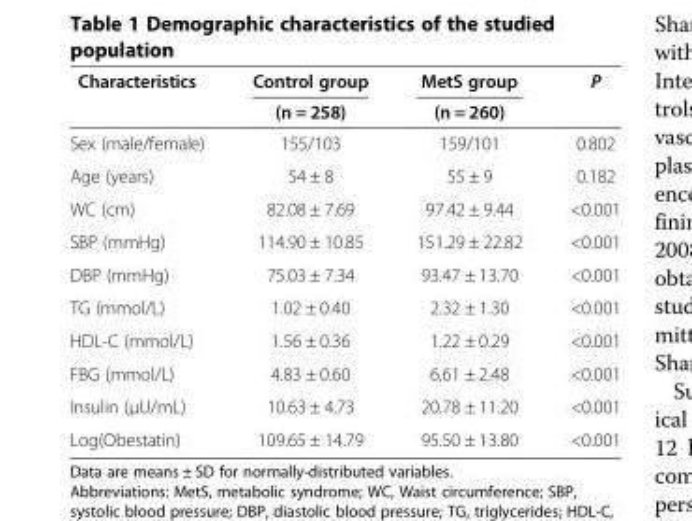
<table><thead><tr><td rowspan="2">Characteristics</td><td rowspan="2">Control group (n = 258)</td><td rowspan="2">MetS group (n = 260)</td><td rowspan="2">P</td></tr><tr></tr></thead><tbody><tr><td>Sex (male/female)</td><td>155/103</td><td>159/101</td><td>0.802</td></tr><tr><td>Age (years)</td><td>54 ± 8</td><td>55 ± 9</td><td>0.182</td></tr><tr><td>WC (cm)</td><td>82.08 ± 7.69</td><td>97.42 ± 9.44</td><td>&lt;0.001</td></tr><tr><td>SBP (mmHg)</td><td>114.90 ± 10.85</td><td>151.29 ± 22.82</td><td>&lt;0.001</td></tr><tr><td>DBP (mmHg)</td><td>75.03 ± 7.34</td><td>93.47 ± 13.70</td><td>&lt;0.001</td></tr><tr><td>TG (mmol/L)</td><td>1.02 ± 0.40</td><td>2.32 ± 1.30</td><td>&lt;0.001</td></tr><tr><td>HDL-C (mmol/L)</td><td>1.56 ± 0.36</td><td>1.22 ± 0.29</td><td>&lt;0.001</td></tr><tr><td>FBG (mmol/L)</td><td>4.83 ± 0.60</td><td>6.61 ± 2.48</td><td>&lt;0.001</td></tr><tr><td>Insulin (μU/mL)</td><td>10.63 ± 4.73</td><td>20.78 ± 11.20</td><td>&lt;0.001</td></tr><tr><td>Log(Obestatin)</td><td>109.65 ± 14.79</td><td>95.50 ± 13.80</td><td>&lt;0.001</td></tr></tbody></table>